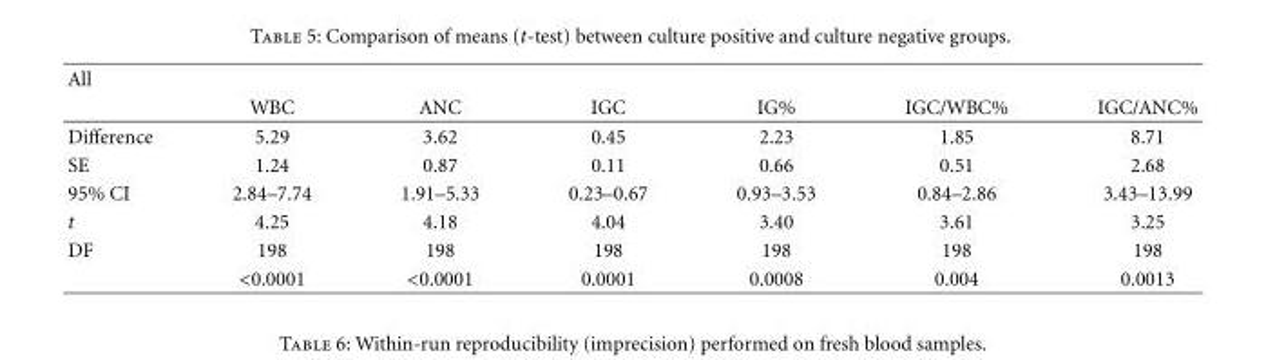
<table><thead><tr><td rowspan="2">All</td><td rowspan="2">WBC</td><td rowspan="2">ANC</td><td rowspan="2">IGC</td><td rowspan="2">IG%</td><td rowspan="2">IGC/WBC%</td><td rowspan="2">IGC/ANC%</td></tr><tr></tr></thead><tbody><tr><td>Difference</td><td>5.29</td><td>3.62</td><td>0.45</td><td>2.23</td><td>1.85</td><td>8.71</td></tr><tr><td>SE</td><td>1.24</td><td>0.87</td><td>0.11</td><td>0.66</td><td>0.51</td><td>2.68</td></tr><tr><td>95% CI</td><td>2.84–7.74</td><td>1.91–5.33</td><td>0.23–0.67</td><td>0.93–3.53</td><td>0.84–2.86</td><td>3.43–13.99</td></tr><tr><td>t</td><td>4.25</td><td>4.18</td><td>4.04</td><td>3.40</td><td>3.61</td><td>3.25</td></tr><tr><td rowspan="2">DF</td><td>198</td><td>198</td><td>198</td><td>198</td><td>198</td><td>198</td></tr><tr><td>&lt;0.0001</td><td>&lt;0.0001</td><td>0.0001</td><td>0.0008</td><td>0.004</td><td>0.0013</td></tr></tbody></table>